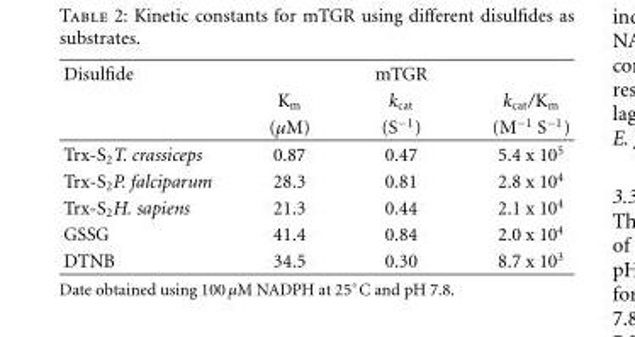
<table><thead><tr><td rowspan="3">Disulfide</td><td rowspan="3">K<sub>m</sub> (μM)</td><td rowspan="3">mTGR k<sub>cat</sub> (S<sup>−1</sup>)</td><td rowspan="3">k<sub>cat</sub>/K<sub>m</sub> (M<sup>−1</sup> S<sup>−1</sup>)</td></tr><tr></tr><tr></tr></thead><tbody><tr><td>Trx-S<sub>2</sub>T. crassiceps</td><td>0.87</td><td>0.47</td><td>5.4 x 10<sup>5</sup></td></tr><tr><td>Trx-S<sub>2</sub>P. falciparum</td><td>28.3</td><td>0.81</td><td>2.8 x 10<sup>4</sup></td></tr><tr><td>Trx-S<sub>2</sub>H. sapiens</td><td>21.3</td><td>0.44</td><td>2.1 x 10<sup>4</sup></td></tr><tr><td>GSSG</td><td>41.4</td><td>0.84</td><td>2.0 x 10<sup>4</sup></td></tr><tr><td>DTNB</td><td>34.5</td><td>0.30</td><td>8.7 x 10<sup>3</sup></td></tr></tbody></table>